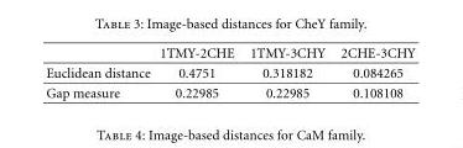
<table><thead><tr><td></td><td>1TMY-2CHE</td><td>1TMY-3CHY</td><td>2CHE-3CHY</td></tr></thead><tbody><tr><td>Euclidean distance</td><td>0.4751</td><td>0.318182</td><td>0.084265</td></tr><tr><td>Gap measure</td><td>0.22985</td><td>0.22985</td><td>0.108108</td></tr></tbody></table>